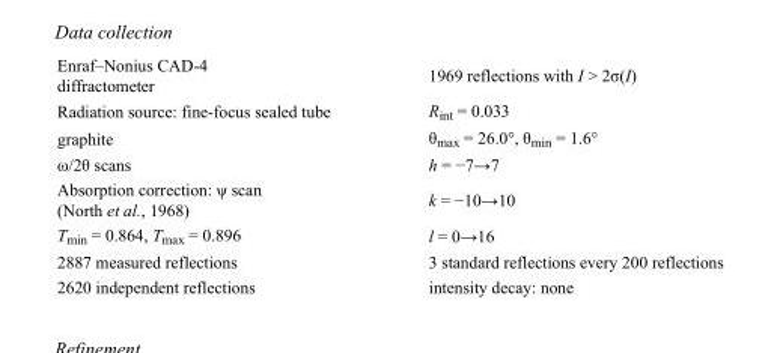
<table><tbody><tr><td>Enraf–Nonius CAD-4 diffractometer</td><td>1969 reflections with I &gt; 2σ(I)</td></tr><tr><td>Radiation source: fine-focus sealed tube</td><td>R<sub>int</sub> = 0.033</td></tr><tr><td>graphite</td><td>θ<sub>max</sub> = 26.0°, θ<sub>min</sub> = 1.6°</td></tr><tr><td>ω/2θ scans</td><td>h = −7→7</td></tr><tr><td>Absorption correction: ψ scan (North et al., 1968)</td><td>k = −10→10</td></tr><tr><td>T<sub>min</sub> = 0.864, T<sub>max</sub> = 0.896</td><td>l = 0→16</td></tr><tr><td>2887 measured reflections</td><td>3 standard reflections every 200 reflections</td></tr><tr><td>2620 independent reflections</td><td>intensity decay: none</td></tr></tbody></table>